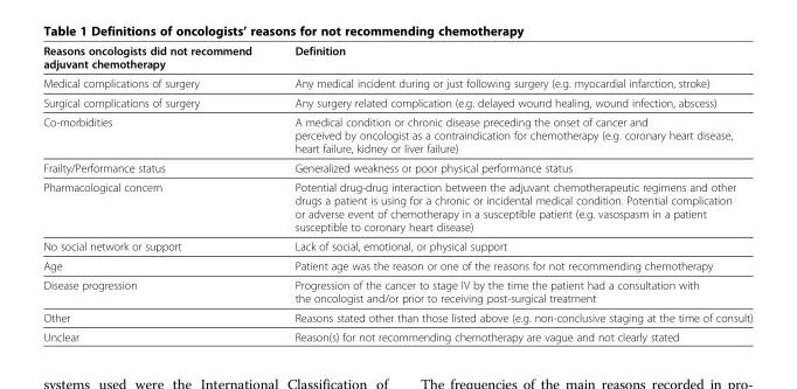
<table><thead><tr><td>Reasons oncologists did not recommend adjuvant chemotherapy</td><td>Definition</td></tr></thead><tbody><tr><td>Medical complications of surgery</td><td>Any medical incident during or just following surgery (e.g. myocardial infarction, stroke)</td></tr><tr><td>Surgical complications of surgery</td><td>Any surgery related complication (e.g. delayed wound healing, wound infection, abscess)</td></tr><tr><td>Co-morbidities</td><td>A medical condition or chronic disease preceding the onset of cancer and perceived by oncologist as a contraindication for chemotherapy (e.g. coronary heart disease, heart failure, kidney or liver failure)</td></tr><tr><td>Frailty/Performance status</td><td>Generalized weakness or poor physical performance status</td></tr><tr><td>Pharmacological concern</td><td>Potential drug-drug interaction between the adjuvant chemotherapeutic regimens and other drugs a patient is using for a chronic or incidental medical condition. Potential complication or adverse event of chemotherapy in a susceptible patient (e.g. vasospasm in a patient susceptible to coronary heart disease)</td></tr><tr><td>No social network or support</td><td>Lack of social, emotional, or physical support</td></tr><tr><td>Age</td><td>Patient age was the reason or one of the reasons for not recommending chemotherapy</td></tr><tr><td>Disease progression</td><td>Progression of the cancer to stage IV by the time the patient had a consultation with the oncologist and/or prior to receiving post-surgical treatment</td></tr><tr><td>Other</td><td>Reasons stated other than those listed above (e.g. non-conclusive staging at the time of consult)</td></tr><tr><td>Unclear</td><td>Reason(s) for not recommending chemotherapy are vague and not clearly stated</td></tr></tbody></table>